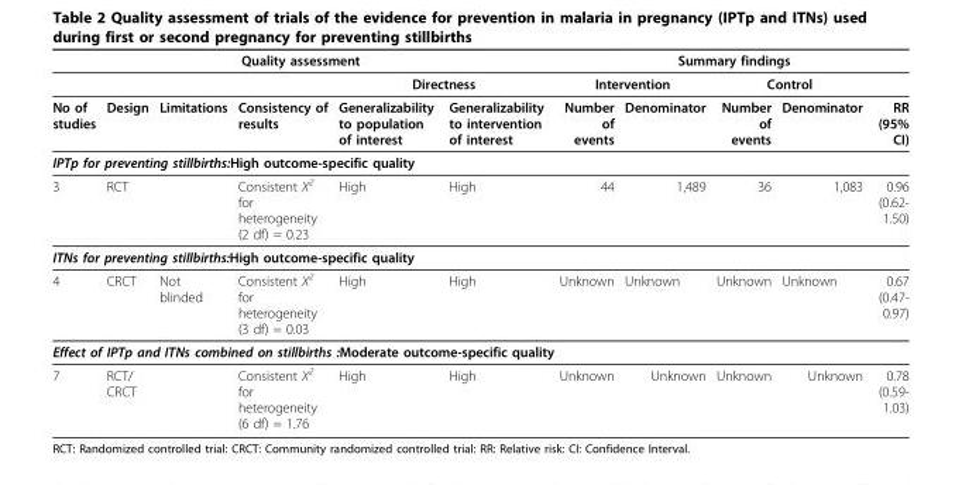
<table><thead><tr><td colspan="6">Quality assessment</td><td colspan="5">Summary findings</td></tr><tr><td rowspan="2">No of studies</td><td rowspan="2">Design</td><td rowspan="2">Limitations</td><td rowspan="2">Consistency of results</td><td colspan="2">Directness</td><td colspan="2">Intervention</td><td colspan="2">Control</td><td rowspan="2">RR (95% CI)</td></tr><tr><td>Generalizability to population of interest</td><td>Generalizability to intervention of interest</td><td>Number of events</td><td>Denominator</td><td>Number of events</td><td>Denominator</td></tr></thead><tbody><tr><td colspan="11">IPTp for preventing stillbirths:High outcome-specific quality</td></tr><tr><td>3</td><td>RCT</td><td></td><td>Consistent X<sup>2</sup> for heterogeneity (2 df) = 0.23</td><td>High</td><td>High</td><td>44</td><td>1,489</td><td>36</td><td>1,083</td><td>0.96 (0.62- 1.50)</td></tr><tr><td colspan="11">ITNs for preventing stillbirths:High outcome-specific quality</td></tr><tr><td>4</td><td>CRCT</td><td>Not blinded</td><td>Consistent X<sup>2</sup> for heterogeneity (3 df) = 0.03</td><td>High</td><td>High</td><td>Unknown</td><td>Unknown</td><td>Unknown</td><td>Unknown</td><td>0.67 (0.47- 0.97)</td></tr><tr><td colspan="11">Effect of IPTp and ITNs combined on stillbirths :Moderate outcome-specific quality</td></tr><tr><td>7</td><td>RCT/ CRCT</td><td></td><td>Consistent X<sup>2</sup> for heterogeneity (6 df) = 1.76</td><td>High</td><td>High</td><td>Unknown</td><td>Unknown</td><td>Unknown</td><td>Unknown</td><td>0.78 (0.59- 1.03)</td></tr></tbody></table>